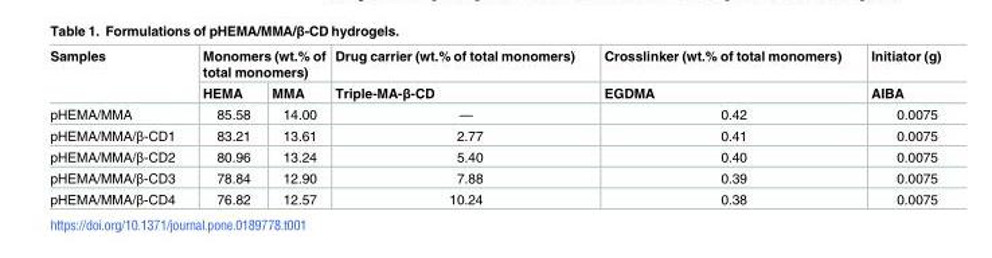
<table><thead><tr><td rowspan="2">Samples</td><td colspan="2">Monomers (wt.% of total monomers)</td><td rowspan="2">Drug carrier (wt.% of total monomers) Triple-MA-β-CD</td><td rowspan="2">Crosslinker (wt.% of total monomers) EGDMA</td><td rowspan="2">Initiator (g) AIBA</td></tr><tr><td>HEMA</td><td>MMA</td></tr></thead><tbody><tr><td>pHEMA/MMA</td><td>85.58</td><td>14.00</td><td>—</td><td>0.42</td><td>0.0075</td></tr><tr><td>pHEMA/MMA/β-CD1</td><td>83.21</td><td>13.61</td><td>2.77</td><td>0.41</td><td>0.0075</td></tr><tr><td>pHEMA/MMA/β-CD2</td><td>80.96</td><td>13.24</td><td>5.40</td><td>0.40</td><td>0.0075</td></tr><tr><td>pHEMA/MMA/β-CD3</td><td>78.84</td><td>12.90</td><td>7.88</td><td>0.39</td><td>0.0075</td></tr><tr><td>pHEMA/MMA/β-CD4</td><td>76.82</td><td>12.57</td><td>10.24</td><td>0.38</td><td>0.0075</td></tr></tbody></table>